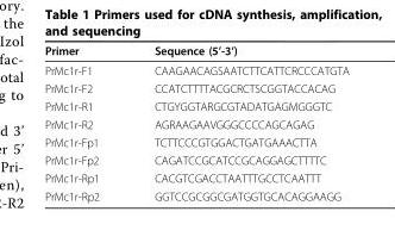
<table><thead><tr><td>Primer</td><td>Sequence (5’-3’)</td></tr></thead><tbody><tr><td>PrMc1r-F1</td><td>CAAGAACAGSAATCTTCATTCRCCCATGTA</td></tr><tr><td>PrMc1r-F2</td><td>CCATCTTTTACGCRCTSCGGTACCACAG</td></tr><tr><td>PrMc1r-R1</td><td>CTGYGGTARGCGTADATGAGMGGGTC</td></tr><tr><td>PrMc1r-R2</td><td>AGRAAGAAVGGGCCCCAGCAGAG</td></tr><tr><td>PrMc1r-Fp1</td><td>TCTTCCCGTGGACTGATGAAACTTA</td></tr><tr><td>PrMc1r-Fp2</td><td>CAGATCCGCATCCGCAGGAGCTTTTC</td></tr><tr><td>PrMc1r-Rp1</td><td>CACGTCGACCTAATTTGCCTCAATTT</td></tr><tr><td>PrMc1r-Rp2</td><td>GGTCCGCGGCGATGGTGCACAGGAAGG</td></tr></tbody></table>